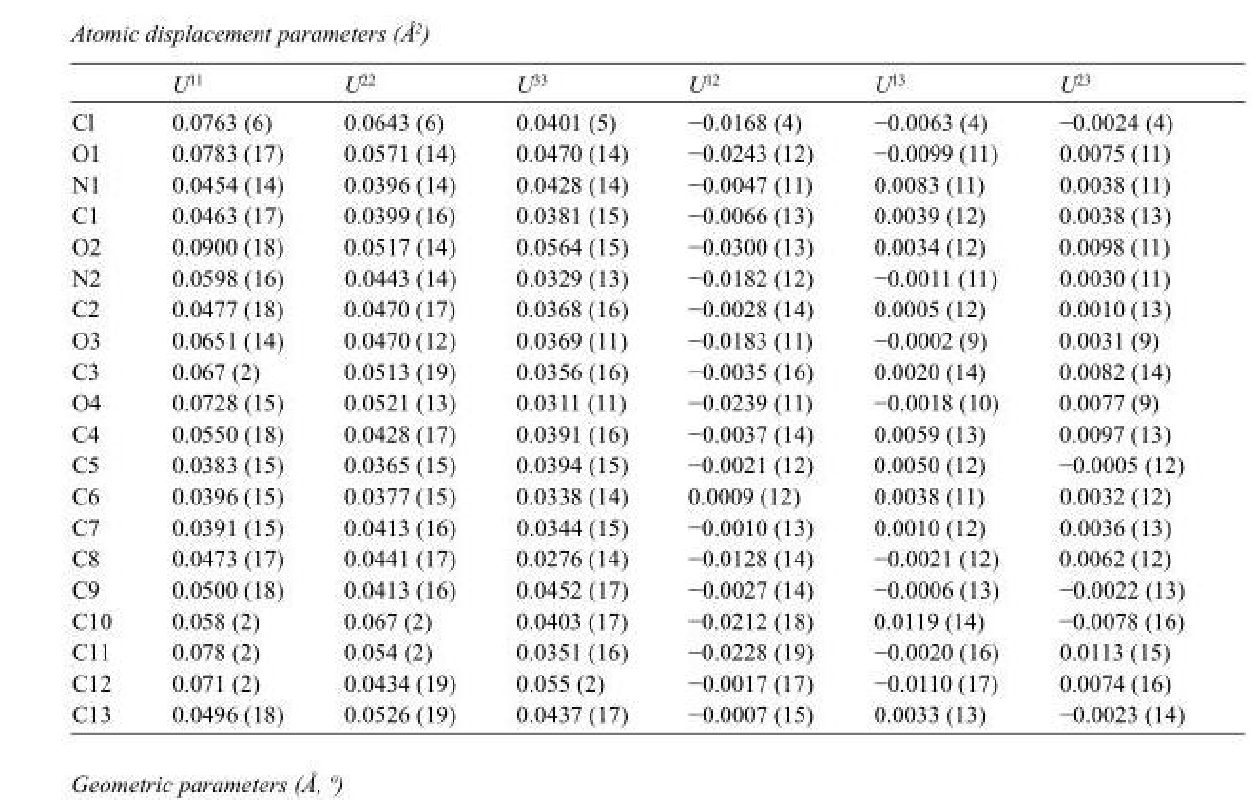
<table><thead><tr><td></td><td>U<sup>11</sup></td><td>U<sup>22</sup></td><td>U<sup>33</sup></td><td>U<sup>12</sup></td><td>U<sup>13</sup></td><td>U<sup>23</sup></td></tr></thead><tbody><tr><td>Cl</td><td>0.0763 (6)</td><td>0.0643 (6)</td><td>0.0401 (5)</td><td>−0.0168 (4)</td><td>−0.0063 (4)</td><td>−0.0024 (4)</td></tr><tr><td>O1</td><td>0.0783 (17)</td><td>0.0571 (14)</td><td>0.0470 (14)</td><td>−0.0243 (12)</td><td>−0.0099 (11)</td><td>0.0075 (11)</td></tr><tr><td>N1</td><td>0.0454 (14)</td><td>0.0396 (14)</td><td>0.0428 (14)</td><td>−0.0047 (11)</td><td>0.0083 (11)</td><td>0.0038 (11)</td></tr><tr><td>C1</td><td>0.0463 (17)</td><td>0.0399 (16)</td><td>0.0381 (15)</td><td>−0.0066 (13)</td><td>0.0039 (12)</td><td>0.0038 (13)</td></tr><tr><td>O2</td><td>0.0900 (18)</td><td>0.0517 (14)</td><td>0.0564 (15)</td><td>−0.0300 (13)</td><td>0.0034 (12)</td><td>0.0098 (11)</td></tr><tr><td>N2</td><td>0.0598 (16)</td><td>0.0443 (14)</td><td>0.0329 (13)</td><td>−0.0182 (12)</td><td>−0.0011 (11)</td><td>0.0030 (11)</td></tr><tr><td>C2</td><td>0.0477 (18)</td><td>0.0470 (17)</td><td>0.0368 (16)</td><td>−0.0028 (14)</td><td>0.0005 (12)</td><td>0.0010 (13)</td></tr><tr><td>O3</td><td>0.0651 (14)</td><td>0.0470 (12)</td><td>0.0369 (11)</td><td>−0.0183 (11)</td><td>−0.0002 (9)</td><td>0.0031 (9)</td></tr><tr><td>C3</td><td>0.067 (2)</td><td>0.0513 (19)</td><td>0.0356 (16)</td><td>−0.0035 (16)</td><td>0.0020 (14)</td><td>0.0082 (14)</td></tr><tr><td>O4</td><td>0.0728 (15)</td><td>0.0521 (13)</td><td>0.0311 (11)</td><td>−0.0239 (11)</td><td>−0.0018 (10)</td><td>0.0077 (9)</td></tr><tr><td>C4</td><td>0.0550 (18)</td><td>0.0428 (17)</td><td>0.0391 (16)</td><td>−0.0037 (14)</td><td>0.0059 (13)</td><td>0.0097 (13)</td></tr><tr><td>C5</td><td>0.0383 (15)</td><td>0.0365 (15)</td><td>0.0394 (15)</td><td>−0.0021 (12)</td><td>0.0050 (12)</td><td>−0.0005 (12)</td></tr><tr><td>C6</td><td>0.0396 (15)</td><td>0.0377 (15)</td><td>0.0338 (14)</td><td>0.0009 (12)</td><td>0.0038 (11)</td><td>0.0032 (12)</td></tr><tr><td>C7</td><td>0.0391 (15)</td><td>0.0413 (16)</td><td>0.0344 (15)</td><td>−0.0010 (13)</td><td>0.0010 (12)</td><td>0.0036 (13)</td></tr><tr><td>C8</td><td>0.0473 (17)</td><td>0.0441 (17)</td><td>0.0276 (14)</td><td>−0.0128 (14)</td><td>−0.0021 (12)</td><td>0.0062 (12)</td></tr><tr><td>C9</td><td>0.0500 (18)</td><td>0.0413 (16)</td><td>0.0452 (17)</td><td>−0.0027 (14)</td><td>−0.0006 (13)</td><td>−0.0022 (13)</td></tr><tr><td>C10</td><td>0.058 (2)</td><td>0.067 (2)</td><td>0.0403 (17)</td><td>−0.0212 (18)</td><td>0.0119 (14)</td><td>−0.0078 (16)</td></tr><tr><td>C11</td><td>0.078 (2)</td><td>0.054 (2)</td><td>0.0351 (16)</td><td>−0.0228 (19)</td><td>−0.0020 (16)</td><td>0.0113 (15)</td></tr><tr><td>C12</td><td>0.071 (2)</td><td>0.0434 (19)</td><td>0.055 (2)</td><td>−0.0017 (17)</td><td>−0.0110 (17)</td><td>0.0074 (16)</td></tr><tr><td>C13</td><td>0.0496 (18)</td><td>0.0526 (19)</td><td>0.0437 (17)</td><td>−0.0007 (15)</td><td>0.0033 (13)</td><td>−0.0023 (14)</td></tr></tbody></table>